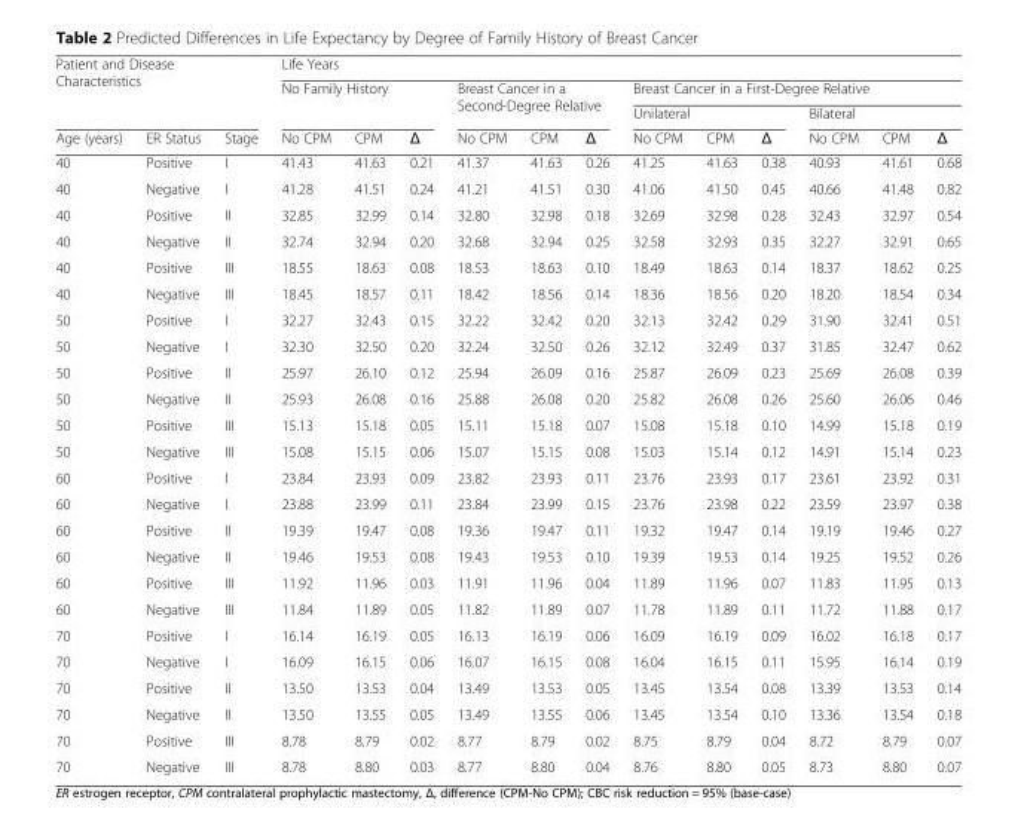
<table><thead><tr><td rowspan="3" colspan="3">Patient and Disease Characteristics</td><td colspan="12">Life Years</td></tr><tr><td rowspan="2" colspan="3">No Family History</td><td rowspan="2" colspan="3">Breast Cancer in a Second-Degree Relative</td><td colspan="6">Breast Cancer in a First-Degree Relative</td></tr><tr><td colspan="3">Unilateral</td><td colspan="3">Bilateral</td></tr><tr><td>Age (years)</td><td>ER Status</td><td>Stage</td><td>No CPM</td><td>CPM</td><td>Δ</td><td>No CPM</td><td>CPM</td><td>Δ</td><td>No CPM</td><td>CPM</td><td>Δ</td><td>No CPM</td><td>CPM</td><td>Δ</td></tr></thead><tbody><tr><td>40</td><td>Positive</td><td>I</td><td>41.43</td><td>41.63</td><td>0.21</td><td>41.37</td><td>41.63</td><td>0.26</td><td>41.25</td><td>41.63</td><td>0.38</td><td>40.93</td><td>41.61</td><td>0.68</td></tr><tr><td>40</td><td>Negative</td><td>I</td><td>41.28</td><td>41.51</td><td>0.24</td><td>41.21</td><td>41.51</td><td>0.30</td><td>41.06</td><td>41.50</td><td>0.45</td><td>40.66</td><td>41.48</td><td>0.82</td></tr><tr><td>40</td><td>Positive</td><td>II</td><td>32.85</td><td>32.99</td><td>0.14</td><td>32.80</td><td>32.98</td><td>0.18</td><td>32.69</td><td>32.98</td><td>0.28</td><td>32.43</td><td>32.97</td><td>0.54</td></tr><tr><td>40</td><td>Negative</td><td>II</td><td>32.74</td><td>32.94</td><td>0.20</td><td>32.68</td><td>32.94</td><td>0.25</td><td>32.58</td><td>32.93</td><td>0.35</td><td>32.27</td><td>32.91</td><td>0.65</td></tr><tr><td>40</td><td>Positive</td><td>III</td><td>18.55</td><td>18.63</td><td>0.08</td><td>18.53</td><td>18.63</td><td>0.10</td><td>18.49</td><td>18.63</td><td>0.14</td><td>18.37</td><td>18.62</td><td>0.25</td></tr><tr><td>40</td><td>Negative</td><td>III</td><td>18.45</td><td>18.57</td><td>0.11</td><td>18.42</td><td>18.56</td><td>0.14</td><td>18.36</td><td>18.56</td><td>0.20</td><td>18.20</td><td>18.54</td><td>0.34</td></tr><tr><td>50</td><td>Positive</td><td>I</td><td>32.27</td><td>32.43</td><td>0.15</td><td>32.22</td><td>32.42</td><td>0.20</td><td>32.13</td><td>32.42</td><td>0.29</td><td>31.90</td><td>32.41</td><td>0.51</td></tr><tr><td>50</td><td>Negative</td><td>I</td><td>32.30</td><td>32.50</td><td>0.20</td><td>32.24</td><td>32.50</td><td>0.26</td><td>32.12</td><td>32.49</td><td>0.37</td><td>31.85</td><td>32.47</td><td>0.62</td></tr><tr><td>50</td><td>Positive</td><td>II</td><td>25.97</td><td>26.10</td><td>0.12</td><td>25.94</td><td>26.09</td><td>0.16</td><td>25.87</td><td>26.09</td><td>0.23</td><td>25.69</td><td>26.08</td><td>0.39</td></tr><tr><td>50</td><td>Negative</td><td>II</td><td>25.93</td><td>26.08</td><td>0.16</td><td>25.88</td><td>26.08</td><td>0.20</td><td>25.82</td><td>26.08</td><td>0.26</td><td>25.60</td><td>26.06</td><td>0.46</td></tr><tr><td>50</td><td>Positive</td><td>III</td><td>15.13</td><td>15.18</td><td>0.05</td><td>15.11</td><td>15.18</td><td>0.07</td><td>15.08</td><td>15.18</td><td>0.10</td><td>14.99</td><td>15.18</td><td>0.19</td></tr><tr><td>50</td><td>Negative</td><td>III</td><td>15.08</td><td>15.15</td><td>0.06</td><td>15.07</td><td>15.15</td><td>0.08</td><td>15.03</td><td>15.14</td><td>0.12</td><td>14.91</td><td>15.14</td><td>0.23</td></tr><tr><td>60</td><td>Positive</td><td>I</td><td>23.84</td><td>23.93</td><td>0.09</td><td>23.82</td><td>23.93</td><td>0.11</td><td>23.76</td><td>23.93</td><td>0.17</td><td>23.61</td><td>23.92</td><td>0.31</td></tr><tr><td>60</td><td>Negative</td><td>I</td><td>23.88</td><td>23.99</td><td>0.11</td><td>23.84</td><td>23.99</td><td>0.15</td><td>23.76</td><td>23.98</td><td>0.22</td><td>23.59</td><td>23.97</td><td>0.38</td></tr><tr><td>60</td><td>Positive</td><td>II</td><td>19.39</td><td>19.47</td><td>0.08</td><td>19.36</td><td>19.47</td><td>0.11</td><td>19.32</td><td>19.47</td><td>0.14</td><td>19.19</td><td>19.46</td><td>0.27</td></tr><tr><td>60</td><td>Negative</td><td>II</td><td>19.46</td><td>19.53</td><td>0.08</td><td>19.43</td><td>19.53</td><td>0.10</td><td>19.39</td><td>19.53</td><td>0.14</td><td>19.25</td><td>19.52</td><td>0.26</td></tr><tr><td>60</td><td>Positive</td><td>III</td><td>11.92</td><td>11.96</td><td>0.03</td><td>11.91</td><td>11.96</td><td>0.04</td><td>11.89</td><td>11.96</td><td>0.07</td><td>11.83</td><td>11.95</td><td>0.13</td></tr><tr><td>60</td><td>Negative</td><td>III</td><td>11.84</td><td>11.89</td><td>0.05</td><td>11.82</td><td>11.89</td><td>0.07</td><td>11.78</td><td>11.89</td><td>0.11</td><td>11.72</td><td>11.88</td><td>0.17</td></tr><tr><td>70</td><td>Positive</td><td>I</td><td>16.14</td><td>16.19</td><td>0.05</td><td>16.13</td><td>16.19</td><td>0.06</td><td>16.09</td><td>16.19</td><td>0.09</td><td>16.02</td><td>16.18</td><td>0.17</td></tr><tr><td>70</td><td>Negative</td><td>I</td><td>16.09</td><td>16.15</td><td>0.06</td><td>16.07</td><td>16.15</td><td>0.08</td><td>16.04</td><td>16.15</td><td>0.11</td><td>15.95</td><td>16.14</td><td>0.19</td></tr><tr><td>70</td><td>Positive</td><td>II</td><td>13.50</td><td>13.53</td><td>0.04</td><td>13.49</td><td>13.53</td><td>0.05</td><td>13.45</td><td>13.54</td><td>0.08</td><td>13.39</td><td>13.53</td><td>0.14</td></tr><tr><td>70</td><td>Negative</td><td>II</td><td>13.50</td><td>13.55</td><td>0.05</td><td>13.49</td><td>13.55</td><td>0.06</td><td>13.45</td><td>13.54</td><td>0.10</td><td>13.36</td><td>13.54</td><td>0.18</td></tr><tr><td>70</td><td>Positive</td><td>III</td><td>8.78</td><td>8.79</td><td>0.02</td><td>8.77</td><td>8.79</td><td>0.02</td><td>8.75</td><td>8.79</td><td>0.04</td><td>8.72</td><td>8.79</td><td>0.07</td></tr><tr><td>70</td><td>Negative</td><td>III</td><td>8.78</td><td>8.80</td><td>0.03</td><td>8.77</td><td>8.80</td><td>0.04</td><td>8.76</td><td>8.80</td><td>0.05</td><td>8.73</td><td>8.80</td><td>0.07</td></tr></tbody></table>